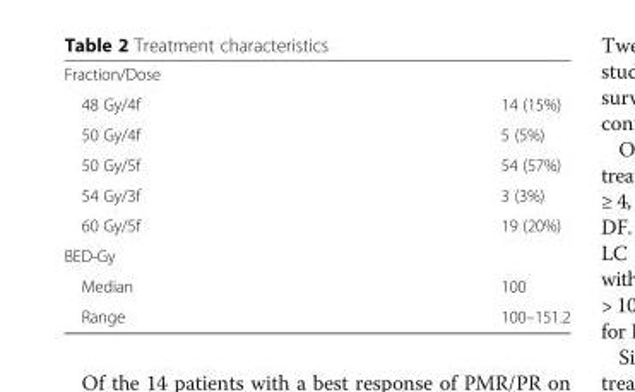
<table><tbody><tr><td colspan="2">Fraction/Dose</td></tr><tr><td>48 Gy/4f</td><td>14 (15%)</td></tr><tr><td>50 Gy/4f</td><td>5 (5%)</td></tr><tr><td>50 Gy/5f</td><td>54 (57%)</td></tr><tr><td>54 Gy/3f</td><td>3 (3%)</td></tr><tr><td>60 Gy/5f</td><td>19 (20%)</td></tr><tr><td colspan="2">BED-Gy</td></tr><tr><td>Median</td><td>100</td></tr><tr><td>Range</td><td>100–151.2</td></tr></tbody></table>